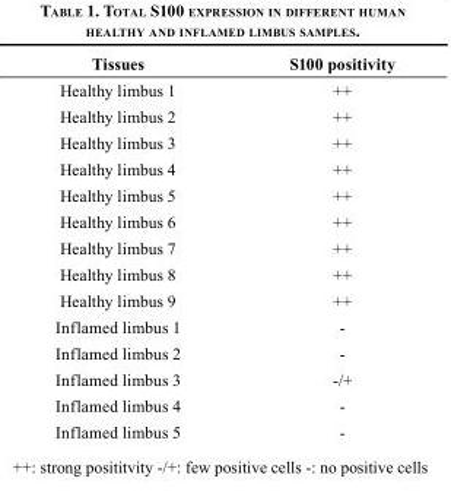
<table><thead><tr><td>Tissues</td><td>S100 positivity</td></tr></thead><tbody><tr><td>Healthy limbus 1</td><td>++</td></tr><tr><td>Healthy limbus 2</td><td>++</td></tr><tr><td>Healthy limbus 3</td><td>++</td></tr><tr><td>Healthy limbus 4</td><td>++</td></tr><tr><td>Healthy limbus 5</td><td>++</td></tr><tr><td>Healthy limbus 6</td><td>++</td></tr><tr><td>Healthy limbus 7</td><td>++</td></tr><tr><td>Healthy limbus 8</td><td>++</td></tr><tr><td>Healthy limbus 9</td><td>++</td></tr><tr><td>Inflamed limbus 1</td><td>-</td></tr><tr><td>Inflamed limbus 2</td><td>-</td></tr><tr><td>Inflamed limbus 3</td><td>-/+</td></tr><tr><td>Inflamed limbus 4</td><td>-</td></tr><tr><td>Inflamed limbus 5</td><td>-</td></tr></tbody></table>